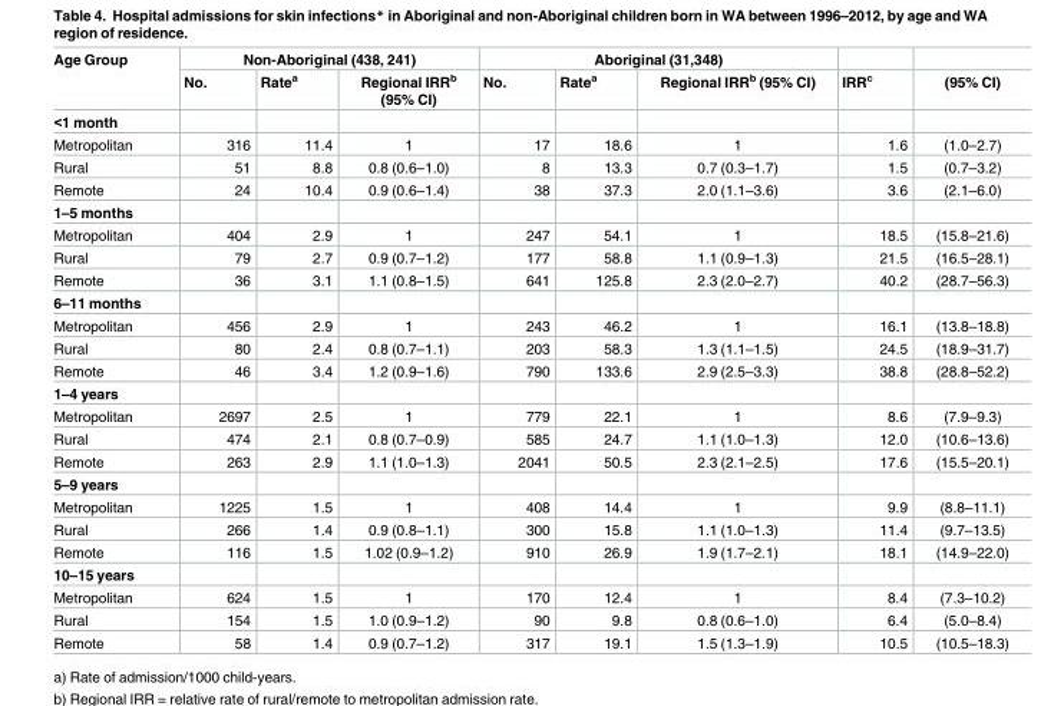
<table><thead><tr><td rowspan="2">Age Group</td><td colspan="3">Non-Aboriginal (438, 241)</td><td colspan="3">Aboriginal (31,348)</td><td rowspan="2">IRR<sup>c</sup></td><td rowspan="2">(95% CI)</td></tr><tr><td>No.</td><td>Rate<sup>a</sup></td><td>Regional IRR<sup>b</sup> (95% CI)</td><td>No.</td><td>Rate<sup>a</sup></td><td>Regional IRR<sup>b</sup> (95% CI)</td></tr></thead><tbody><tr><td colspan="9">&lt;1 month</td></tr><tr><td>Metropolitan</td><td>316</td><td>11.4</td><td>1</td><td>17</td><td>18.6</td><td>1</td><td>1.6</td><td>(1.0–2.7)</td></tr><tr><td>Rural</td><td>51</td><td>8.8</td><td>0.8 (0.6–1.0)</td><td>8</td><td>13.3</td><td>0.7 (0.3–1.7)</td><td>1.5</td><td>(0.7–3.2)</td></tr><tr><td>Remote</td><td>24</td><td>10.4</td><td>0.9 (0.6–1.4)</td><td>38</td><td>37.3</td><td>2.0 (1.1–3.6)</td><td>3.6</td><td>(2.1–6.0)</td></tr><tr><td colspan="9">1–5 months</td></tr><tr><td>Metropolitan</td><td>404</td><td>2.9</td><td>1</td><td>247</td><td>54.1</td><td>1</td><td>18.5</td><td>(15.8–21.6)</td></tr><tr><td>Rural</td><td>79</td><td>2.7</td><td>0.9 (0.7–1.2)</td><td>177</td><td>58.8</td><td>1.1 (0.9–1.3)</td><td>21.5</td><td>(16.5–28.1)</td></tr><tr><td>Remote</td><td>36</td><td>3.1</td><td>1.1 (0.8–1.5)</td><td>641</td><td>125.8</td><td>2.3 (2.0–2.7)</td><td>40.2</td><td>(28.7–56.3)</td></tr><tr><td colspan="9">6–11 months</td></tr><tr><td>Metropolitan</td><td>456</td><td>2.9</td><td>1</td><td>243</td><td>46.2</td><td>1</td><td>16.1</td><td>(13.8–18.8)</td></tr><tr><td>Rural</td><td>80</td><td>2.4</td><td>0.8 (0.7–1.1)</td><td>203</td><td>58.3</td><td>1.3 (1.1–1.5)</td><td>24.5</td><td>(18.9–31.7)</td></tr><tr><td>Remote</td><td>46</td><td>3.4</td><td>1.2 (0.9–1.6)</td><td>790</td><td>133.6</td><td>2.9 (2.5–3.3)</td><td>38.8</td><td>(28.8–52.2)</td></tr><tr><td colspan="9">1–4 years</td></tr><tr><td>Metropolitan</td><td>2697</td><td>2.5</td><td>1</td><td>779</td><td>22.1</td><td>1</td><td>8.6</td><td>(7.9–9.3)</td></tr><tr><td>Rural</td><td>474</td><td>2.1</td><td>0.8 (0.7–0.9)</td><td>585</td><td>24.7</td><td>1.1 (1.0–1.3)</td><td>12.0</td><td>(10.6–13.6)</td></tr><tr><td>Remote</td><td>263</td><td>2.9</td><td>1.1 (1.0–1.3)</td><td>2041</td><td>50.5</td><td>2.3 (2.1–2.5)</td><td>17.6</td><td>(15.5–20.1)</td></tr><tr><td colspan="9">5–9 years</td></tr><tr><td>Metropolitan</td><td>1225</td><td>1.5</td><td>1</td><td>408</td><td>14.4</td><td>1</td><td>9.9</td><td>(8.8–11.1)</td></tr><tr><td>Rural</td><td>266</td><td>1.4</td><td>0.9 (0.8–1.1)</td><td>300</td><td>15.8</td><td>1.1 (1.0–1.3)</td><td>11.4</td><td>(9.7–13.5)</td></tr><tr><td>Remote</td><td>116</td><td>1.5</td><td>1.02 (0.9–1.2)</td><td>910</td><td>26.9</td><td>1.9 (1.7–2.1)</td><td>18.1</td><td>(14.9–22.0)</td></tr><tr><td colspan="9">10–15 years</td></tr><tr><td>Metropolitan</td><td>624</td><td>1.5</td><td>1</td><td>170</td><td>12.4</td><td>1</td><td>8.4</td><td>(7.3–10.2)</td></tr><tr><td>Rural</td><td>154</td><td>1.5</td><td>1.0 (0.9–1.2)</td><td>90</td><td>9.8</td><td>0.8 (0.6–1.0)</td><td>6.4</td><td>(5.0–8.4)</td></tr><tr><td>Remote</td><td>58</td><td>1.4</td><td>0.9 (0.7–1.2)</td><td>317</td><td>19.1</td><td>1.5 (1.3–1.9)</td><td>10.5</td><td>(10.5–18.3)</td></tr></tbody></table>